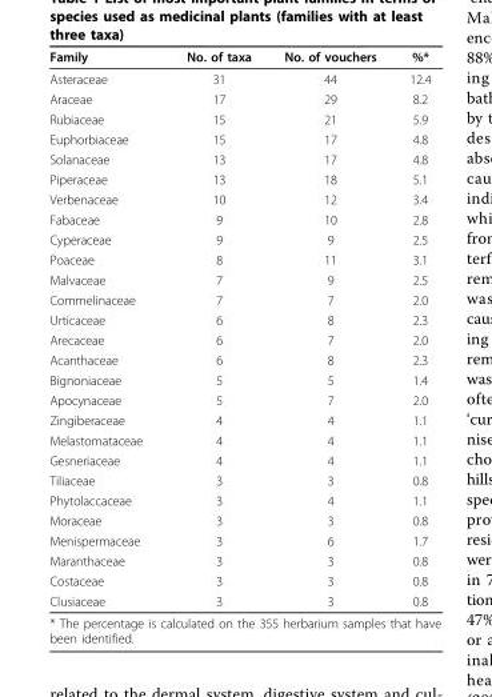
<table><thead><tr><td>Family</td><td>No. of taxa</td><td>No. of vouchers</td><td>%*</td></tr></thead><tbody><tr><td>Asteraceae</td><td>31</td><td>44</td><td>12.4</td></tr><tr><td>Araceae</td><td>17</td><td>29</td><td>8.2</td></tr><tr><td>Rubiaceae</td><td>15</td><td>21</td><td>5.9</td></tr><tr><td>Euphorbiaceae</td><td>15</td><td>17</td><td>4.8</td></tr><tr><td>Solanaceae</td><td>13</td><td>17</td><td>4.8</td></tr><tr><td>Piperaceae</td><td>13</td><td>18</td><td>5.1</td></tr><tr><td>Verbenaceae</td><td>10</td><td>12</td><td>3.4</td></tr><tr><td>Fabaceae</td><td>9</td><td>10</td><td>2.8</td></tr><tr><td>Cyperaceae</td><td>9</td><td>9</td><td>2.5</td></tr><tr><td>Poaceae</td><td>8</td><td>11</td><td>3.1</td></tr><tr><td>Malvaceae</td><td>7</td><td>9</td><td>2.5</td></tr><tr><td>Commelinaceae</td><td>7</td><td>7</td><td>2.0</td></tr><tr><td>Urticaceae</td><td>6</td><td>8</td><td>2.3</td></tr><tr><td>Arecaceae</td><td>6</td><td>7</td><td>2.0</td></tr><tr><td>Acanthaceae</td><td>6</td><td>8</td><td>2.3</td></tr><tr><td>Bignoniaceae</td><td>5</td><td>5</td><td>1.4</td></tr><tr><td>Apocynaceae</td><td>5</td><td>7</td><td>2.0</td></tr><tr><td>Zingiberaceae</td><td>4</td><td>4</td><td>1.1</td></tr><tr><td>Melastomataceae</td><td>4</td><td>4</td><td>1.1</td></tr><tr><td>Gesneriaceae</td><td>4</td><td>4</td><td>1.1</td></tr><tr><td>Tiliaceae</td><td>3</td><td>3</td><td>0.8</td></tr><tr><td>Phytolaccaceae</td><td>3</td><td>4</td><td>1.1</td></tr><tr><td>Moraceae</td><td>3</td><td>3</td><td>0.8</td></tr><tr><td>Menispermaceae</td><td>3</td><td>6</td><td>1.7</td></tr><tr><td>Maranthaceae</td><td>3</td><td>3</td><td>0.8</td></tr><tr><td>Costaceae</td><td>3</td><td>3</td><td>0.8</td></tr><tr><td>Clusiaceae</td><td>3</td><td>3</td><td>0.8</td></tr><tr><td colspan="4">* The percentage is calculated on the 355 herbarium samples that have been identified.</td></tr></tbody></table>